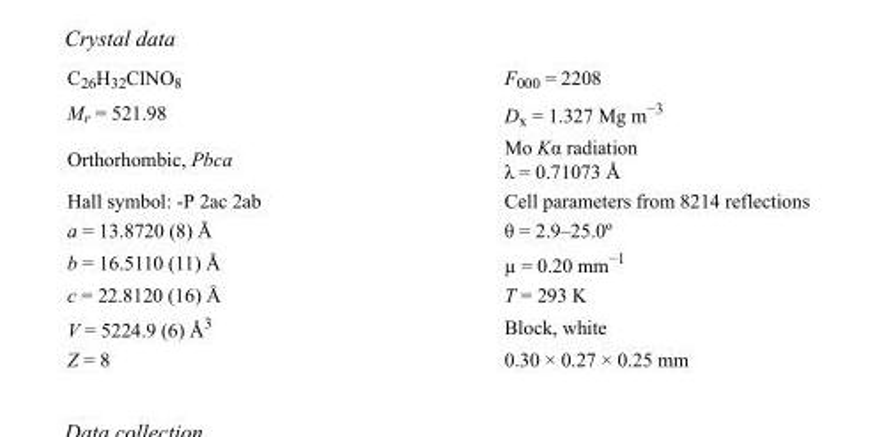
<table><tbody><tr><td>C<sub>26</sub>H<sub>32</sub>ClNO<sub>8</sub></td><td>F000 = 2208</td></tr><tr><td>M<sub>r</sub> = 521.98</td><td>D<sub>x</sub> = 1.327 Mg m<sup>−3</sup></td></tr><tr><td>Orthorhombic, Pbca</td><td>Mo Kα radiation λ = 0.71073 Å</td></tr><tr><td>Hall symbol: -P 2ac 2ab</td><td>Cell parameters from 8214 reflections</td></tr><tr><td>a = 13.8720 (8) Å</td><td>θ = 2.9–25.0º</td></tr><tr><td>b = 16.5110 (11) Å</td><td>µ = 0.20 mm<sup>−1</sup></td></tr><tr><td>c = 22.8120 (16) Å</td><td>T = 293 K</td></tr><tr><td>V = 5224.9 (6) Å<sup>3</sup></td><td>Block, white</td></tr><tr><td>Z = 8</td><td>0.30 × 0.27 × 0.25 mm</td></tr></tbody></table>